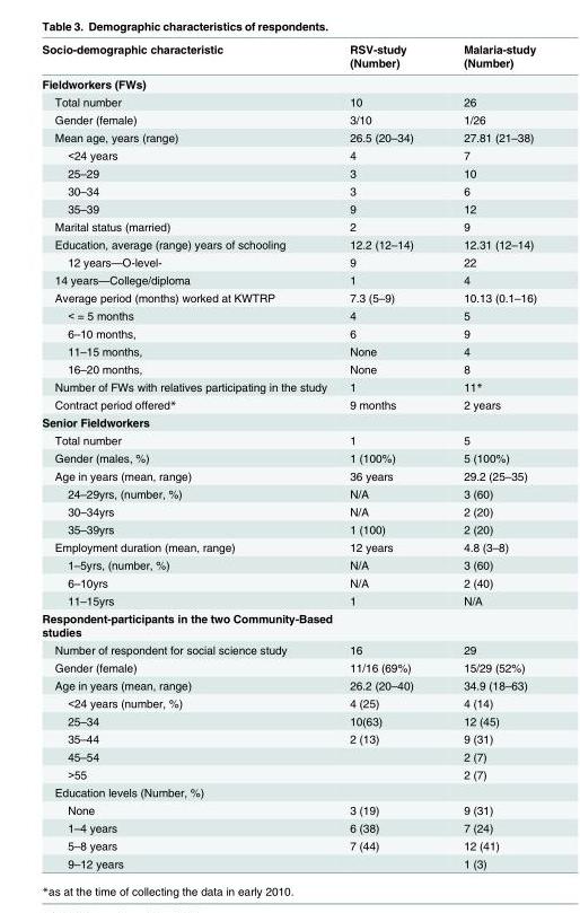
<table><thead><tr><td>Socio-demographic characteristic</td><td>RSV-study (Number)</td><td>Malaria-study (Number)</td></tr></thead><tbody><tr><td colspan="3">Fieldworkers (FWs)</td></tr><tr><td>Total number</td><td>10</td><td>26</td></tr><tr><td>Gender (female)</td><td>3/10</td><td>1/26</td></tr><tr><td>Mean age, years (range)</td><td>26.5 (20–34)</td><td>27.81 (21–38)</td></tr><tr><td>&lt;24 years</td><td>4</td><td>7</td></tr><tr><td>25–29</td><td>3</td><td>10</td></tr><tr><td>30–34</td><td>3</td><td>6</td></tr><tr><td>35–39</td><td>9</td><td>12</td></tr><tr><td>Marital status (married)</td><td>2</td><td>9</td></tr><tr><td>Education, average (range) years of schooling</td><td>12.2 (12–14)</td><td>12.31 (12–14)</td></tr><tr><td>12 years—O-level-</td><td>9</td><td>22</td></tr><tr><td>14 years—College/diploma</td><td>1</td><td>4</td></tr><tr><td>Average period (months) worked at KWTRP</td><td>7.3 (5–9)</td><td>10.13 (0.1–16)</td></tr><tr><td>&lt; = 5 months</td><td>4</td><td>5</td></tr><tr><td>6–10 months,</td><td>6</td><td>9</td></tr><tr><td>11–15 months,</td><td>None</td><td>4</td></tr><tr><td>16–20 months,</td><td>None</td><td>8</td></tr><tr><td>Number of FWs with relatives participating in the study</td><td>1</td><td>11*</td></tr><tr><td>Contract period offered*</td><td>9 months</td><td>2 years</td></tr><tr><td colspan="3">Senior Fieldworkers</td></tr><tr><td>Total number</td><td>1</td><td>5</td></tr><tr><td>Gender (males, %)</td><td>1 (100%)</td><td>5 (100%)</td></tr><tr><td>Age in years (mean, range)</td><td>36 years</td><td>29.2 (25–35)</td></tr><tr><td>24–29yrs, (number, %)</td><td>N/A</td><td>3 (60)</td></tr><tr><td>30–34yrs</td><td>N/A</td><td>2 (20)</td></tr><tr><td>35–39yrs</td><td>1 (100)</td><td>2 (20)</td></tr><tr><td>Employment duration (mean, range)</td><td>12 years</td><td>4.8 (3–8)</td></tr><tr><td>1–5yrs, (number, %)</td><td>N/A</td><td>3 (60)</td></tr><tr><td>6–10yrs</td><td>N/A</td><td>2 (40)</td></tr><tr><td>11–15yrs</td><td>1</td><td>N/A</td></tr><tr><td colspan="3">Respondent-participants in the two Community-Based studies</td></tr><tr><td>Number of respondent for social science study</td><td>16</td><td>29</td></tr><tr><td>Gender (female)</td><td>11/16 (69%)</td><td>15/29 (52%)</td></tr><tr><td>Age in years (mean, range)</td><td>26.2 (20–40)</td><td>34.9 (18–63)</td></tr><tr><td>&lt;24 years (number, %)</td><td>4 (25)</td><td>4 (14)</td></tr><tr><td>25–34</td><td>10(63)</td><td>12 (45)</td></tr><tr><td>35–44</td><td>2 (13)</td><td>9 (31)</td></tr><tr><td>45–54</td><td></td><td>2 (7)</td></tr><tr><td>&gt;55</td><td></td><td>2 (7)</td></tr><tr><td colspan="3">Education levels (Number, %)</td></tr><tr><td>None</td><td>3 (19)</td><td>9 (31)</td></tr><tr><td>1–4 years</td><td>6 (38)</td><td>7 (24)</td></tr><tr><td>5–8 years</td><td>7 (44)</td><td>12 (41)</td></tr><tr><td>9–12 years</td><td></td><td>1 (3)</td></tr></tbody></table>